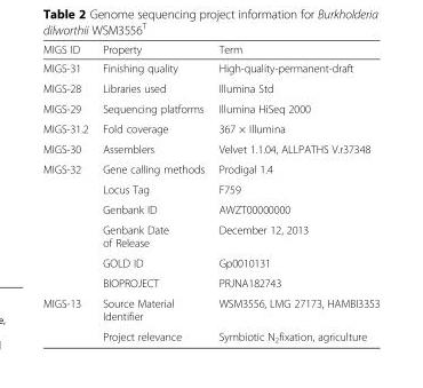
<table><thead><tr><td>MIGS ID</td><td>Property</td><td>Term</td></tr></thead><tbody><tr><td>MIGS-31</td><td>Finishing quality</td><td>High-quality-permanent-draft</td></tr><tr><td>MIGS-28</td><td>Libraries used</td><td>Illumina Std</td></tr><tr><td>MIGS-29</td><td>Sequencing platforms</td><td>Illumina HiSeq 2000</td></tr><tr><td>MIGS-31.2</td><td>Fold coverage</td><td>367 × Illumina</td></tr><tr><td>MIGS-30</td><td>Assemblers</td><td>Velvet 1.1.04, ALLPATHS V.r37348</td></tr><tr><td rowspan="6">MIGS-32</td><td>Gene calling methods</td><td>Prodigal 1.4</td></tr><tr><td>Locus Tag</td><td>F759</td></tr><tr><td>Genbank ID</td><td>AWZT00000000</td></tr><tr><td>Genbank Date of Release</td><td>December 12, 2013</td></tr><tr><td>GOLD ID</td><td>Gp0010131</td></tr><tr><td>BIOPROJECT</td><td>PRJNA182743</td></tr><tr><td rowspan="2">MIGS-13</td><td>Source Material Identifier</td><td>WSM3556, LMG 27173, HAMBI3353</td></tr><tr><td>Project relevance</td><td>Symbiotic N<sub>2</sub>fixation, agriculture</td></tr></tbody></table>